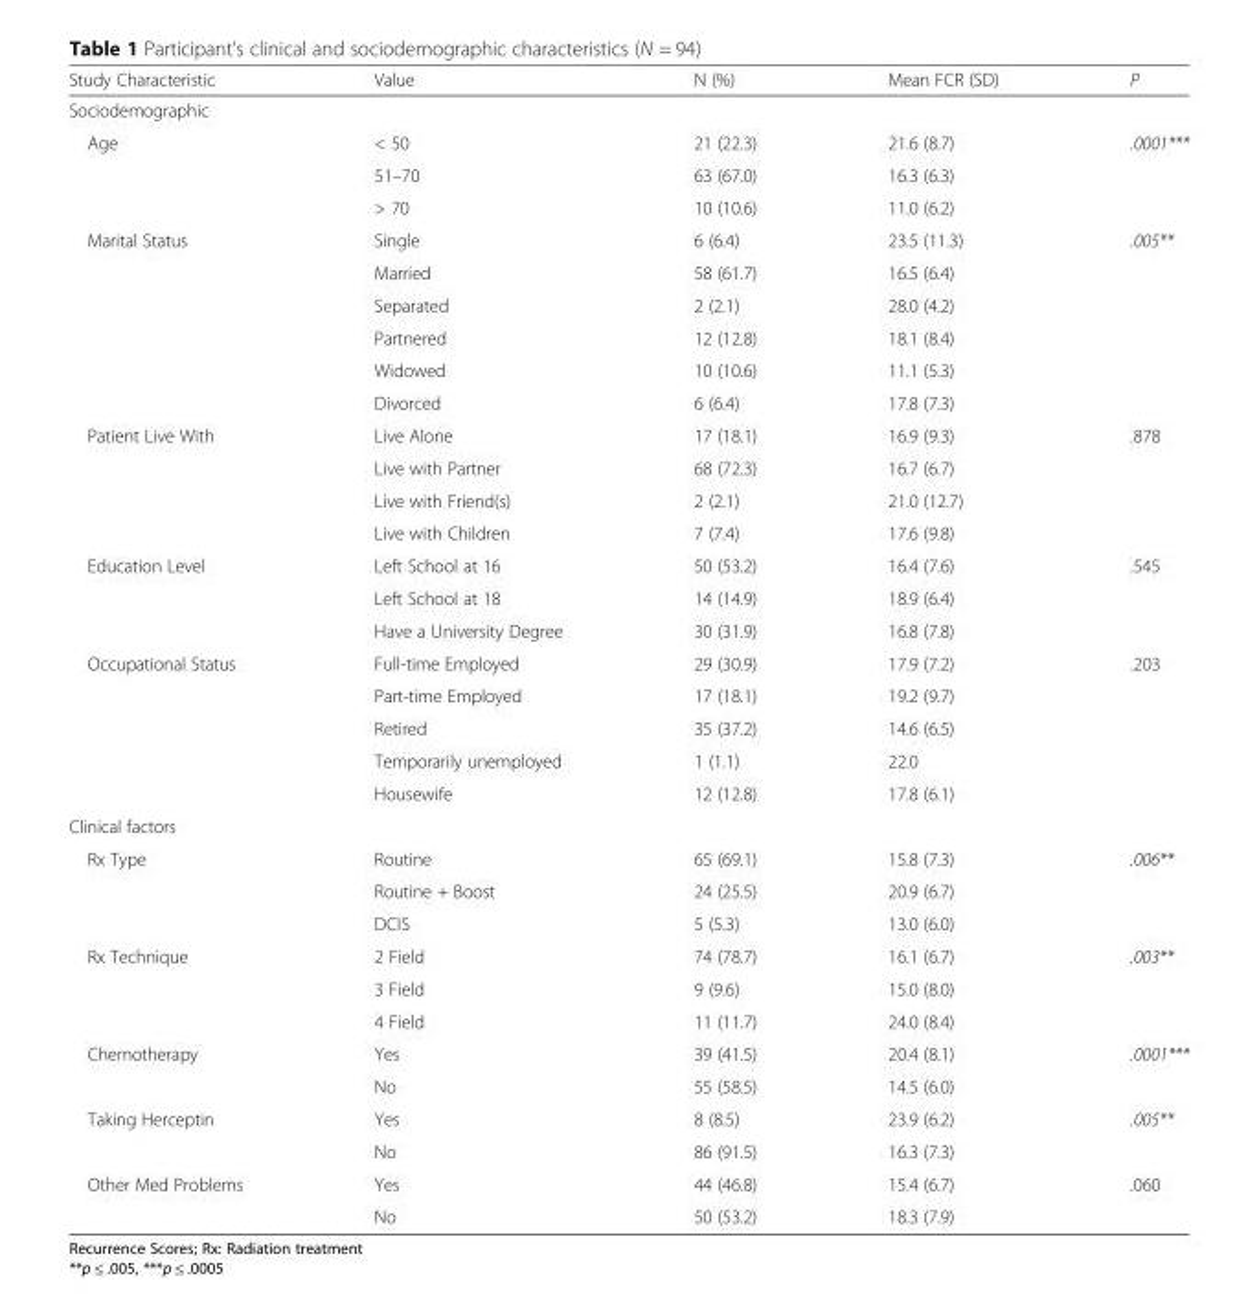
<table><thead><tr><td>Study Characteristic</td><td>Value</td><td>N (%)</td><td>Mean FCR (SD)</td><td>P</td></tr></thead><tbody><tr><td colspan="5">Sociodemographic</td></tr><tr><td rowspan="3">Age</td><td>&lt; 50</td><td>21 (22.3)</td><td>21.6 (8.7)</td><td>.0001***</td></tr><tr><td>51–70</td><td>63 (67.0)</td><td>16.3 (6.3)</td><td></td></tr><tr><td>&gt; 70</td><td>10 (10.6)</td><td>11.0 (6.2)</td><td></td></tr><tr><td rowspan="6">Marital Status</td><td>Single</td><td>6 (6.4)</td><td>23.5 (11.3)</td><td>.005**</td></tr><tr><td>Married</td><td>58 (61.7)</td><td>16.5 (6.4)</td><td></td></tr><tr><td>Separated</td><td>2 (2.1)</td><td>28.0 (4.2)</td><td></td></tr><tr><td>Partnered</td><td>12 (12.8)</td><td>18.1 (8.4)</td><td></td></tr><tr><td>Widowed</td><td>10 (10.6)</td><td>11.1 (5.3)</td><td></td></tr><tr><td>Divorced</td><td>6 (6.4)</td><td>17.8 (7.3)</td><td></td></tr><tr><td rowspan="4">Patient Live With</td><td>Live Alone</td><td>17 (18.1)</td><td>16.9 (9.3)</td><td>.878</td></tr><tr><td>Live with Partner</td><td>68 (72.3)</td><td>16.7 (6.7)</td><td></td></tr><tr><td>Live with Friend(s)</td><td>2 (2.1)</td><td>21.0 (12.7)</td><td></td></tr><tr><td>Live with Children</td><td>7 (7.4)</td><td>17.6 (9.8)</td><td></td></tr><tr><td rowspan="3">Education Level</td><td>Left School at 16</td><td>50 (53.2)</td><td>16.4 (7.6)</td><td>.545</td></tr><tr><td>Left School at 18</td><td>14 (14.9)</td><td>18.9 (6.4)</td><td></td></tr><tr><td>Have a University Degree</td><td>30 (31.9)</td><td>16.8 (7.8)</td><td></td></tr><tr><td rowspan="5">Occupational Status</td><td>Full-time Employed</td><td>29 (30.9)</td><td>17.9 (7.2)</td><td>.203</td></tr><tr><td>Part-time Employed</td><td>17 (18.1)</td><td>19.2 (9.7)</td><td></td></tr><tr><td>Retired</td><td>35 (37.2)</td><td>14.6 (6.5)</td><td></td></tr><tr><td>Temporarily unemployed</td><td>1 (1.1)</td><td>22.0</td><td></td></tr><tr><td>Housewife</td><td>12 (12.8)</td><td>17.8 (6.1)</td><td></td></tr><tr><td colspan="5">Clinical factors</td></tr><tr><td rowspan="3">Rx Type</td><td>Routine</td><td>65 (69.1)</td><td>15.8 (7.3)</td><td>.006**</td></tr><tr><td>Routine + Boost</td><td>24 (25.5)</td><td>20.9 (6.7)</td><td></td></tr><tr><td>DCIS</td><td>5 (5.3)</td><td>13.0 (6.0)</td><td></td></tr><tr><td rowspan="3">Rx Technique</td><td>2 Field</td><td>74 (78.7)</td><td>16.1 (6.7)</td><td>.003**</td></tr><tr><td>3 Field</td><td>9 (9.6)</td><td>15.0 (8.0)</td><td></td></tr><tr><td>4 Field</td><td>11 (11.7)</td><td>24.0 (8.4)</td><td></td></tr><tr><td rowspan="2">Chemotherapy</td><td>Yes</td><td>39 (41.5)</td><td>20.4 (8.1)</td><td>.0001***</td></tr><tr><td>No</td><td>55 (58.5)</td><td>14.5 (6.0)</td><td></td></tr><tr><td rowspan="2">Taking Herceptin</td><td>Yes</td><td>8 (8.5)</td><td>23.9 (6.2)</td><td>.005**</td></tr><tr><td>No</td><td>86 (91.5)</td><td>16.3 (7.3)</td><td></td></tr><tr><td rowspan="2">Other Med Problems</td><td>Yes</td><td>44 (46.8)</td><td>15.4 (6.7)</td><td>.060</td></tr><tr><td>No</td><td>50 (53.2)</td><td>18.3 (7.9)</td><td></td></tr></tbody></table>